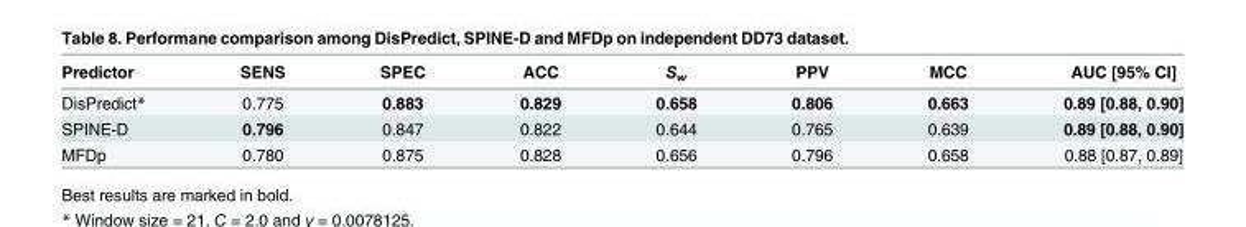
<table><thead><tr><td>Predictor</td><td>SENS</td><td>SPEC</td><td>ACC</td><td>S<sub>w</sub></td><td>PPV</td><td>MCC</td><td>AUC [95% CI]</td></tr></thead><tbody><tr><td>DisPredict*</td><td>0.775</td><td>0.883</td><td>0.829</td><td>0.658</td><td>0.806</td><td>0.663</td><td>0.89 [0.88, 0.90]</td></tr><tr><td>SPINE-D</td><td>0.796</td><td>0.847</td><td>0.822</td><td>0.644</td><td>0.765</td><td>0.639</td><td>0.89 [0.88, 0.90]</td></tr><tr><td>MFDp</td><td>0.780</td><td>0.875</td><td>0.828</td><td>0.656</td><td>0.796</td><td>0.658</td><td>0.88 [0.87, 0.89]</td></tr></tbody></table>